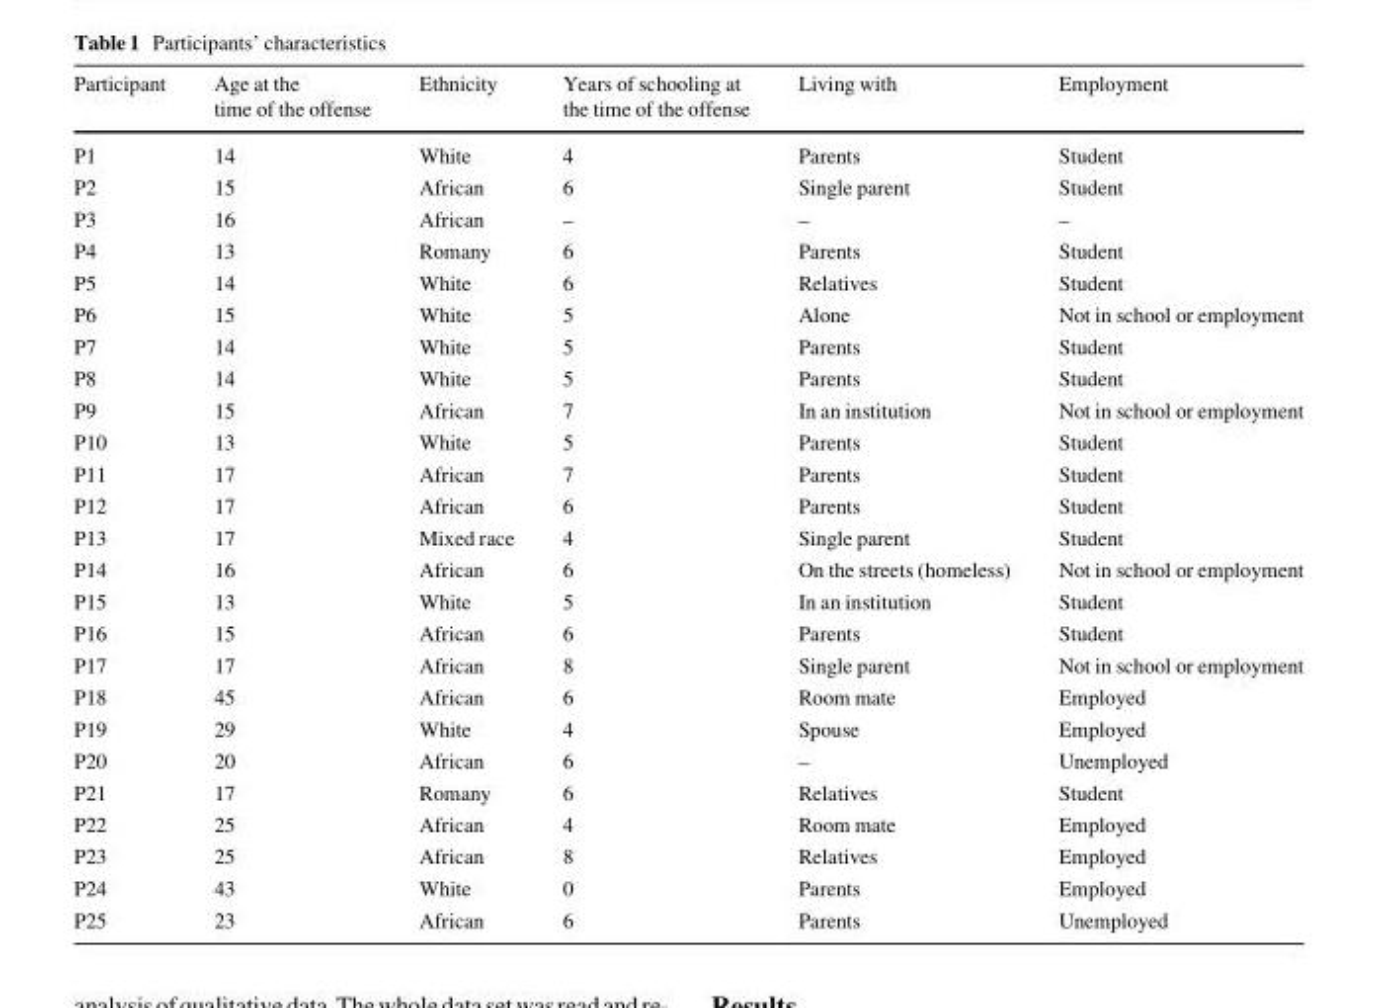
<table><thead><tr><td>Participant</td><td>Age at the time of the offense</td><td>Ethnicity</td><td>Years of schooling at the time of the offense</td><td>Living with</td><td>Employment</td></tr></thead><tbody><tr><td>P1</td><td>14</td><td>White</td><td>4</td><td>Parents</td><td>Student</td></tr><tr><td>P2</td><td>15</td><td>African</td><td>6</td><td>Single parent</td><td>Student</td></tr><tr><td>P3</td><td>16</td><td>African</td><td>–</td><td>–</td><td>–</td></tr><tr><td>P4</td><td>13</td><td>Romany</td><td>6</td><td>Parents</td><td>Student</td></tr><tr><td>P5</td><td>14</td><td>White</td><td>6</td><td>Relatives</td><td>Student</td></tr><tr><td>P6</td><td>15</td><td>White</td><td>5</td><td>Alone</td><td>Not in school or employment</td></tr><tr><td>P7</td><td>14</td><td>White</td><td>5</td><td>Parents</td><td>Student</td></tr><tr><td>P8</td><td>14</td><td>White</td><td>5</td><td>Parents</td><td>Student</td></tr><tr><td>P9</td><td>15</td><td>African</td><td>7</td><td>In an institution</td><td>Not in school or employment</td></tr><tr><td>P10</td><td>13</td><td>White</td><td>5</td><td>Parents</td><td>Student</td></tr><tr><td>P11</td><td>17</td><td>African</td><td>7</td><td>Parents</td><td>Student</td></tr><tr><td>P12</td><td>17</td><td>African</td><td>6</td><td>Parents</td><td>Student</td></tr><tr><td>P13</td><td>17</td><td>Mixed race</td><td>4</td><td>Single parent</td><td>Student</td></tr><tr><td>P14</td><td>16</td><td>African</td><td>6</td><td>On the streets (homeless)</td><td>Not in school or employment</td></tr><tr><td>P15</td><td>13</td><td>White</td><td>5</td><td>In an institution</td><td>Student</td></tr><tr><td>P16</td><td>15</td><td>African</td><td>6</td><td>Parents</td><td>Student</td></tr><tr><td>P17</td><td>17</td><td>African</td><td>8</td><td>Single parent</td><td>Not in school or employment</td></tr><tr><td>P18</td><td>45</td><td>African</td><td>6</td><td>Room mate</td><td>Employed</td></tr><tr><td>P19</td><td>29</td><td>White</td><td>4</td><td>Spouse</td><td>Employed</td></tr><tr><td>P20</td><td>20</td><td>African</td><td>6</td><td>–</td><td>Unemployed</td></tr><tr><td>P21</td><td>17</td><td>Romany</td><td>6</td><td>Relatives</td><td>Student</td></tr><tr><td>P22</td><td>25</td><td>African</td><td>4</td><td>Room mate</td><td>Employed</td></tr><tr><td>P23</td><td>25</td><td>African</td><td>8</td><td>Relatives</td><td>Employed</td></tr><tr><td>P24</td><td>43</td><td>White</td><td>0</td><td>Parents</td><td>Employed</td></tr><tr><td>P25</td><td>23</td><td>African</td><td>6</td><td>Parents</td><td>Unemployed</td></tr></tbody></table>